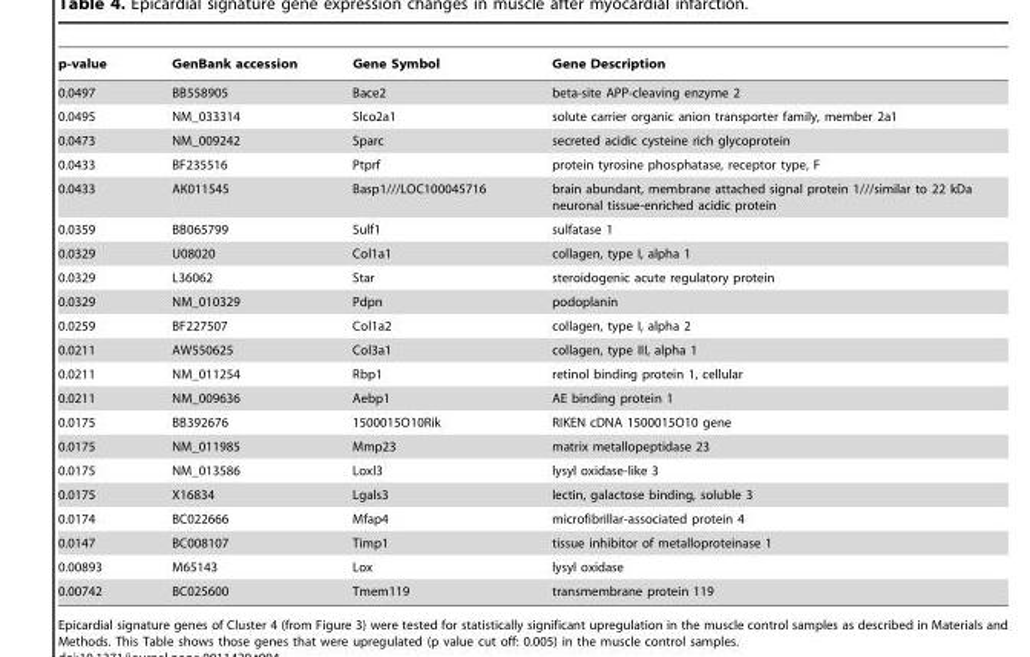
<table><thead><tr><td>p-value</td><td>GenBank accession</td><td>Gene Symbol</td><td>Gene Description</td></tr></thead><tbody><tr><td>0.0497</td><td>BB558905</td><td>Bace2</td><td>beta-site APP-cleaving enzyme 2</td></tr><tr><td>0.0495</td><td>NM_033314</td><td>Slco2a1</td><td>solute carrier organic anion transporter family, member 2a1</td></tr><tr><td>0.0473</td><td>NM_009242</td><td>Sparc</td><td>secreted acidic cysteine rich glycoprotein</td></tr><tr><td>0.0433</td><td>BF235516</td><td>Ptprf</td><td>protein tyrosine phosphatase, receptor type, F</td></tr><tr><td>0.0433</td><td>AK011545</td><td>Basp1///LOC100045716</td><td>brain abundant, membrane attached signal protein 1///similar to 22 kDa neuronal tissue-enriched acidic protein</td></tr><tr><td>0.0359</td><td>BB065799</td><td>Sulf1</td><td>sulfatase 1</td></tr><tr><td>0.0329</td><td>U08020</td><td>Col1a1</td><td>collagen, type I, alpha 1</td></tr><tr><td>0.0329</td><td>L36062</td><td>Star</td><td>steroidogenic acute regulatory protein</td></tr><tr><td>0.0329</td><td>NM_010329</td><td>Pdpn</td><td>podoplanin</td></tr><tr><td>0.0259</td><td>BF227507</td><td>Col1a2</td><td>collagen, type I, alpha 2</td></tr><tr><td>0.0211</td><td>AW550625</td><td>Col3a1</td><td>collagen, type III, alpha 1</td></tr><tr><td>0.0211</td><td>NM_011254</td><td>Rbp1</td><td>retinol binding protein 1, cellular</td></tr><tr><td>0.0211</td><td>NM_009636</td><td>Aebp1</td><td>AE binding protein 1</td></tr><tr><td>0.0175</td><td>BB392676</td><td>1500015O10Rik</td><td>RIKEN cDNA 1500015O10 gene</td></tr><tr><td>0.0175</td><td>NM_011985</td><td>Mmp23</td><td>matrix metallopeptidase 23</td></tr><tr><td>0.0175</td><td>NM_013586</td><td>Loxl3</td><td>lysyl oxidase-like 3</td></tr><tr><td>0.0175</td><td>X16834</td><td>Lgals3</td><td>lectin, galactose binding, soluble 3</td></tr><tr><td>0.0174</td><td>BC022666</td><td>Mfap4</td><td>microfibrillar-associated protein 4</td></tr><tr><td>0.0147</td><td>BC008107</td><td>Timp1</td><td>tissue inhibitor of metalloproteinase 1</td></tr><tr><td>0.00893</td><td>M65143</td><td>Lox</td><td>lysyl oxidase</td></tr><tr><td>0.00742</td><td>BC025600</td><td>Tmem119</td><td>transmembrane protein 119</td></tr></tbody></table>